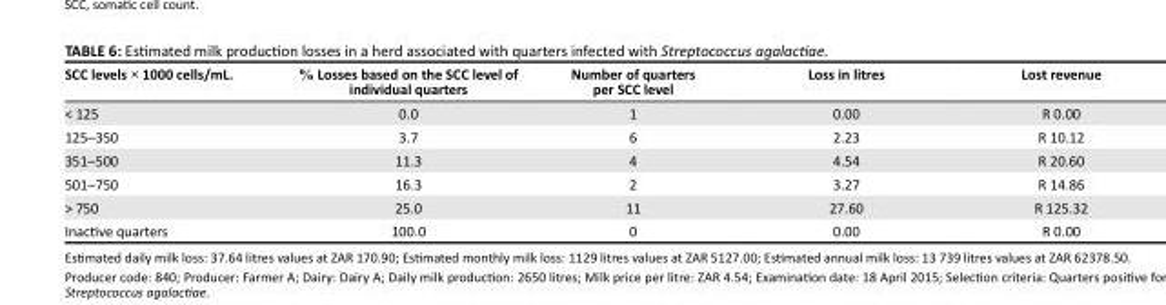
<table><thead><tr><td>SCC levels × 1000 cells/mL.</td><td>% Losses based on the SCC level of individual quarters</td><td>Number of quarters per SCC level</td><td>Loss in litres</td><td>Lost revenue</td></tr></thead><tbody><tr><td>&lt; 125</td><td>0.0</td><td>1</td><td>0.00</td><td>R 0.00</td></tr><tr><td>125–350</td><td>3.7</td><td>6</td><td>2.23</td><td>R 10.12</td></tr><tr><td>351–500</td><td>11.3</td><td>4</td><td>4.54</td><td>R 20.60</td></tr><tr><td>501–750</td><td>16.3</td><td>2</td><td>3.27</td><td>R 14.86</td></tr><tr><td>&gt; 750</td><td>25.0</td><td>11</td><td>27.60</td><td>R 125.32</td></tr><tr><td>Inactive quarters</td><td>100.0</td><td>0</td><td>0.00</td><td>R 0.00</td></tr></tbody></table>